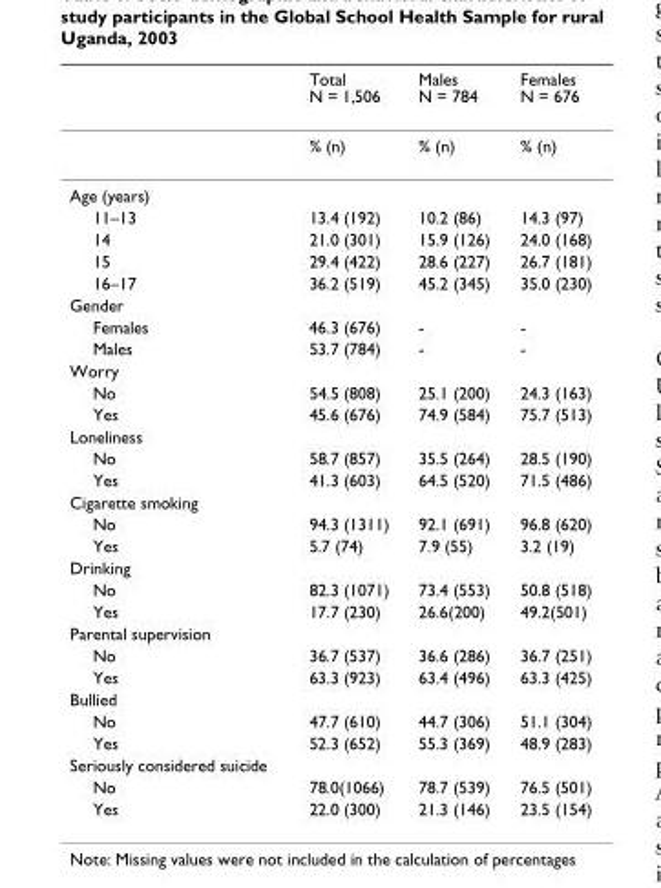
<table><thead><tr><td></td><td>Total N = 1,506</td><td>Males N = 784</td><td>Females N = 676</td></tr></thead><tbody><tr><td></td><td>% (n)</td><td>% (n)</td><td>% (n)</td></tr><tr><td colspan="4">Age (years)</td></tr><tr><td>11–13</td><td>13.4 (192)</td><td>10.2 (86)</td><td>14.3 (97)</td></tr><tr><td>14</td><td>21.0 (301)</td><td>15.9 (126)</td><td>24.0 (168)</td></tr><tr><td>15</td><td>29.4 (422)</td><td>28.6 (227)</td><td>26.7 (181)</td></tr><tr><td>16–17</td><td>36.2 (519)</td><td>45.2 (345)</td><td>35.0 (230)</td></tr><tr><td colspan="4">Gender</td></tr><tr><td>Females</td><td>46.3 (676)</td><td>-</td><td>-</td></tr><tr><td>Males</td><td>53.7 (784)</td><td>-</td><td>-</td></tr><tr><td colspan="4">Worry</td></tr><tr><td>No</td><td>54.5 (808)</td><td>25.1 (200)</td><td>24.3 (163)</td></tr><tr><td>Yes</td><td>45.6 (676)</td><td>74.9 (584)</td><td>75.7 (513)</td></tr><tr><td colspan="4">Loneliness</td></tr><tr><td>No</td><td>58.7 (857)</td><td>35.5 (264)</td><td>28.5 (190)</td></tr><tr><td>Yes</td><td>41.3 (603)</td><td>64.5 (520)</td><td>71.5 (486)</td></tr><tr><td colspan="4">Cigarette smoking</td></tr><tr><td>No</td><td>94.3 (1311)</td><td>92.1 (691)</td><td>96.8 (620)</td></tr><tr><td>Yes</td><td>5.7 (74)</td><td>7.9 (55)</td><td>3.2 (19)</td></tr><tr><td colspan="4">Drinking</td></tr><tr><td>No</td><td>82.3 (1071)</td><td>73.4 (553)</td><td>50.8 (518)</td></tr><tr><td>Yes</td><td>17.7 (230)</td><td>26.6(200)</td><td>49.2(501)</td></tr><tr><td colspan="4">Parental supervision</td></tr><tr><td>No</td><td>36.7 (537)</td><td>36.6 (286)</td><td>36.7 (251)</td></tr><tr><td>Yes</td><td>63.3 (923)</td><td>63.4 (496)</td><td>63.3 (425)</td></tr><tr><td colspan="4">Bullied</td></tr><tr><td>No</td><td>47.7 (610)</td><td>44.7 (306)</td><td>51.1 (304)</td></tr><tr><td>Yes</td><td>52.3 (652)</td><td>55.3 (369)</td><td>48.9 (283)</td></tr><tr><td colspan="4">Seriously considered suicide</td></tr><tr><td>No</td><td>78.0(1066)</td><td>78.7 (539)</td><td>76.5 (501)</td></tr><tr><td>Yes</td><td>22.0 (300)</td><td>21.3 (146)</td><td>23.5 (154)</td></tr></tbody></table>